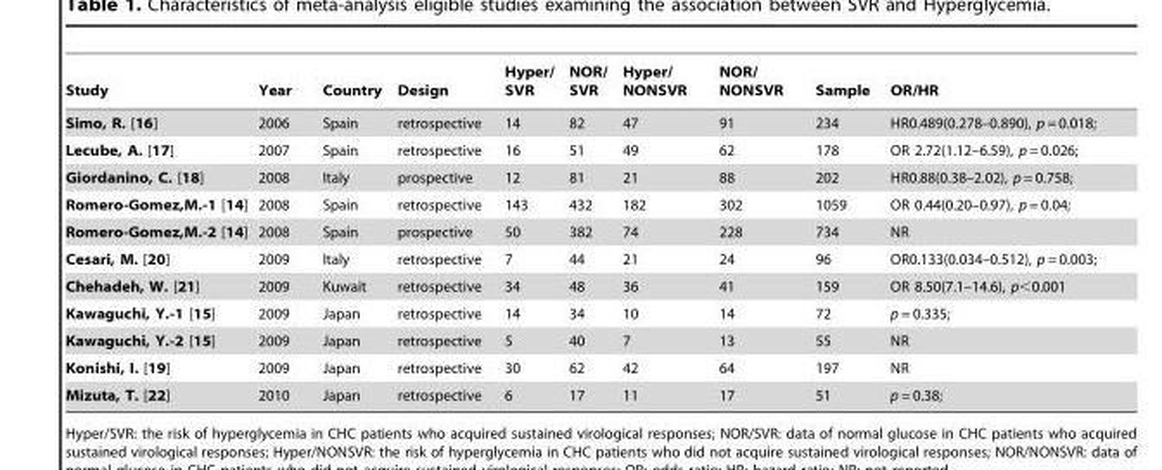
<table><thead><tr><td>Study</td><td>Year</td><td>Country</td><td>Design</td><td>Hyper/ SVR</td><td>NOR/ SVR</td><td>Hyper/ NONSVR</td><td>NOR/ NONSVR</td><td>Sample</td><td>OR/HR</td></tr></thead><tbody><tr><td>Simo, R. [16]</td><td>2006</td><td>Spain</td><td>retrospective</td><td>14</td><td>82</td><td>47</td><td>91</td><td>234</td><td>HR0.489(0.278–0.890), p = 0.018;</td></tr><tr><td>Lecube, A. [17]</td><td>2007</td><td>Spain</td><td>retrospective</td><td>16</td><td>51</td><td>49</td><td>62</td><td>178</td><td>OR 2.72(1.12–6.59), p = 0.026;</td></tr><tr><td>Giordanino, C. [18]</td><td>2008</td><td>Italy</td><td>prospective</td><td>12</td><td>81</td><td>21</td><td>88</td><td>202</td><td>HR0.88(0.38–2.02), p = 0.758;</td></tr><tr><td>Romero-Gomez,M.-1 [14]</td><td>2008</td><td>Spain</td><td>retrospective</td><td>143</td><td>432</td><td>182</td><td>302</td><td>1059</td><td>OR 0.44(0.20–0.97), p = 0.04;</td></tr><tr><td>Romero-Gomez,M.-2 [14]</td><td>2008</td><td>Spain</td><td>prospective</td><td>50</td><td>382</td><td>74</td><td>228</td><td>734</td><td>NR</td></tr><tr><td>Cesari, M. [20]</td><td>2009</td><td>Italy</td><td>retrospective</td><td>7</td><td>44</td><td>21</td><td>24</td><td>96</td><td>OR0.133(0.034–0.512), p = 0.003;</td></tr><tr><td>Chehadeh, W. [21]</td><td>2009</td><td>Kuwait</td><td>retrospective</td><td>34</td><td>48</td><td>36</td><td>41</td><td>159</td><td>OR 8.50(7.1–14.6), p&lt;0.001</td></tr><tr><td>Kawaguchi, Y.-1 [15]</td><td>2009</td><td>Japan</td><td>retrospective</td><td>14</td><td>34</td><td>10</td><td>14</td><td>72</td><td>p = 0.335;</td></tr><tr><td>Kawaguchi, Y.-2 [15]</td><td>2009</td><td>Japan</td><td>retrospective</td><td>5</td><td>40</td><td>7</td><td>13</td><td>55</td><td>NR</td></tr><tr><td>Konishi, I. [19]</td><td>2009</td><td>Japan</td><td>retrospective</td><td>30</td><td>62</td><td>42</td><td>64</td><td>197</td><td>NR</td></tr><tr><td>Mizuta, T. [22]</td><td>2010</td><td>Japan</td><td>retrospective</td><td>6</td><td>17</td><td>11</td><td>17</td><td>51</td><td>p = 0.38;</td></tr></tbody></table>